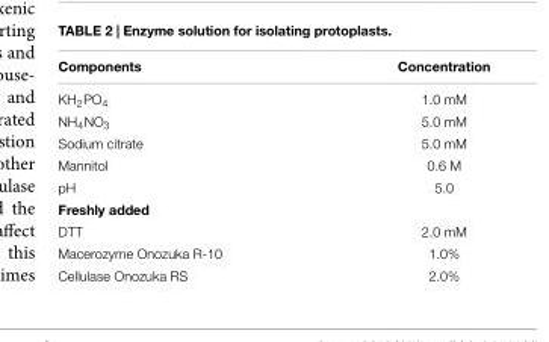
<table><thead><tr><td>Components</td><td>Concentration</td></tr></thead><tbody><tr><td>KH<sub>2</sub>PO<sub>4</sub></td><td>1.0 mM</td></tr><tr><td>NH<sub>4</sub>NO<sub>3</sub></td><td>5.0 mM</td></tr><tr><td>Sodium citrate</td><td>5.0 mM</td></tr><tr><td>Mannitol</td><td>0.6 M</td></tr><tr><td>pH</td><td>5.0</td></tr><tr><td colspan="2">Freshly added</td></tr><tr><td>DTT</td><td>2.0 mM</td></tr><tr><td>Macerozyme Onozuka R-10</td><td>1.0%</td></tr><tr><td>Cellulase Onozuka RS</td><td>2.0%</td></tr></tbody></table>